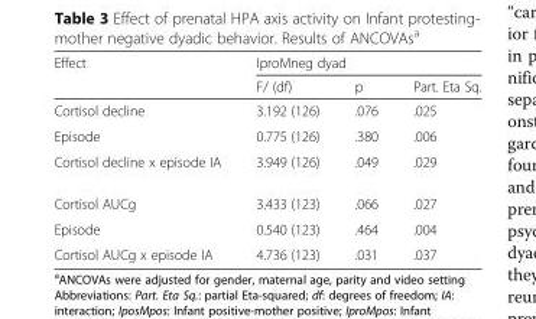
<table><thead><tr><td rowspan="2">Effect</td><td colspan="3">IproMneg dyad</td></tr><tr><td>F/ (df)</td><td>p</td><td>Part. Eta Sq.</td></tr></thead><tbody><tr><td>Cortisol decline</td><td>3.192 (126)</td><td>.076</td><td>.025</td></tr><tr><td>Episode</td><td>0.775 (126)</td><td>.380</td><td>.006</td></tr><tr><td>Cortisol decline x episode IA</td><td>3.949 (126)</td><td>.049</td><td>.029</td></tr><tr><td>Cortisol AUCg</td><td>3.433 (123)</td><td>.066</td><td>.027</td></tr><tr><td>Episode</td><td>0.540 (123)</td><td>.464</td><td>.004</td></tr><tr><td>Cortisol AUCg x episode IA</td><td>4.736 (123)</td><td>.031</td><td>.037</td></tr></tbody></table>